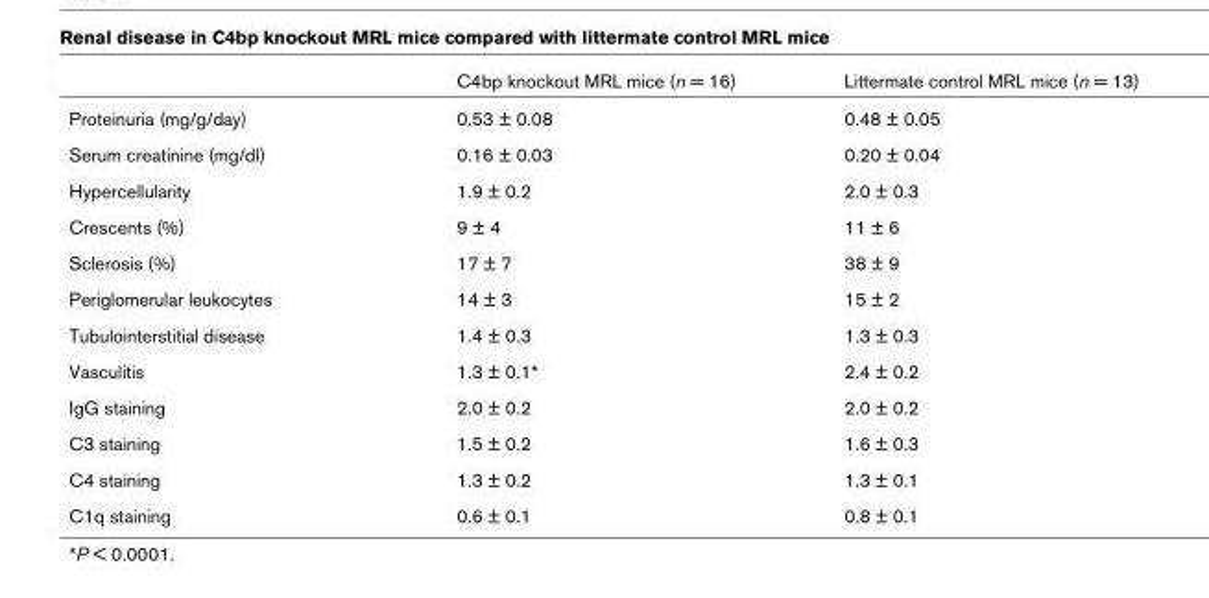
<table><thead><tr><td></td><td>C4bp knockout MRL mice (n = 16)</td><td>Littermate control MRL mice (n = 13)</td></tr></thead><tbody><tr><td>Proteinuria (mg/g/day)</td><td>0.53 ± 0.08</td><td>0.48 ± 0.05</td></tr><tr><td>Serum creatinine (mg/dl)</td><td>0.16 ± 0.03</td><td>0.20 ± 0.04</td></tr><tr><td>Hypercellularity</td><td>1.9 ± 0.2</td><td>2.0 ± 0.3</td></tr><tr><td>Crescents (%)</td><td>9 ± 4</td><td>11 ± 6</td></tr><tr><td>Sclerosis (%)</td><td>17 ± 7</td><td>38 ± 9</td></tr><tr><td>Periglomerular leukocytes</td><td>14 ± 3</td><td>15 ± 2</td></tr><tr><td>Tubulointerstitial disease</td><td>1.4 ± 0.3</td><td>1.3 ± 0.3</td></tr><tr><td>Vasculitis</td><td>1.3 ± 0.1*</td><td>2.4 ± 0.2</td></tr><tr><td>IgG staining</td><td>2.0 ± 0.2</td><td>2.0 ± 0.2</td></tr><tr><td>C3 staining</td><td>1.5 ± 0.2</td><td>1.6 ± 0.3</td></tr><tr><td>C4 staining</td><td>1.3 ± 0.2</td><td>1.3 ± 0.1</td></tr><tr><td>C1q staining</td><td>0.6 ± 0.1</td><td>0.8 ± 0.1</td></tr></tbody></table>